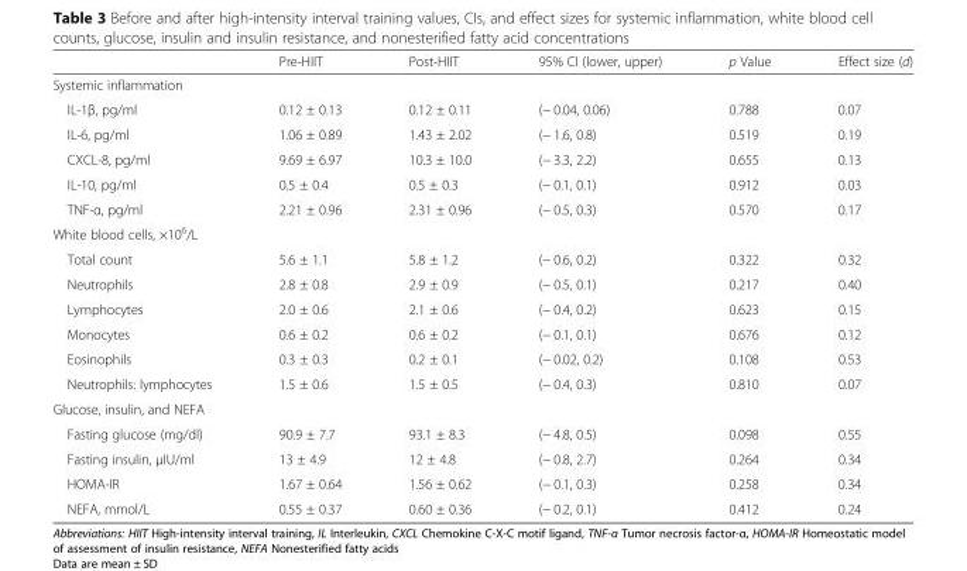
<table><thead><tr><td></td><td>Pre-HIIT</td><td>Post-HIIT</td><td>95% CI (lower, upper)</td><td>p Value</td><td>Effect size (d)</td></tr></thead><tbody><tr><td colspan="6">Systemic inflammation</td></tr><tr><td>IL-1β, pg/ml</td><td>0.12 ± 0.13</td><td>0.12 ± 0.11</td><td>(− 0.04, 0.06)</td><td>0.788</td><td>0.07</td></tr><tr><td>IL-6, pg/ml</td><td>1.06 ± 0.89</td><td>1.43 ± 2.02</td><td>(− 1.6, 0.8)</td><td>0.519</td><td>0.19</td></tr><tr><td>CXCL-8, pg/ml</td><td>9.69 ± 6.97</td><td>10.3 ± 10.0</td><td>(− 3.3, 2.2)</td><td>0.655</td><td>0.13</td></tr><tr><td>IL-10, pg/ml</td><td>0.5 ± 0.4</td><td>0.5 ± 0.3</td><td>(− 0.1, 0.1)</td><td>0.912</td><td>0.03</td></tr><tr><td>TNF-α, pg/ml</td><td>2.21 ± 0.96</td><td>2.31 ± 0.96</td><td>(− 0.5, 0.3)</td><td>0.570</td><td>0.17</td></tr><tr><td colspan="6">White blood cells, ×10<sup>6</sup>/L</td></tr><tr><td>Total count</td><td>5.6 ± 1.1</td><td>5.8 ± 1.2</td><td>(− 0.6, 0.2)</td><td>0.322</td><td>0.32</td></tr><tr><td>Neutrophils</td><td>2.8 ± 0.8</td><td>2.9 ± 0.9</td><td>(− 0.5, 0.1)</td><td>0.217</td><td>0.40</td></tr><tr><td>Lymphocytes</td><td>2.0 ± 0.6</td><td>2.1 ± 0.6</td><td>(− 0.4, 0.2)</td><td>0.623</td><td>0.15</td></tr><tr><td>Monocytes</td><td>0.6 ± 0.2</td><td>0.6 ± 0.2</td><td>(− 0.1, 0.1)</td><td>0.676</td><td>0.12</td></tr><tr><td>Eosinophils</td><td>0.3 ± 0.3</td><td>0.2 ± 0.1</td><td>(− 0.02, 0.2)</td><td>0.108</td><td>0.53</td></tr><tr><td>Neutrophils: lymphocytes</td><td>1.5 ± 0.6</td><td>1.5 ± 0.5</td><td>(− 0.4, 0.3)</td><td>0.810</td><td>0.07</td></tr><tr><td colspan="6">Glucose, insulin, and NEFA</td></tr><tr><td>Fasting glucose (mg/dl)</td><td>90.9 ± 7.7</td><td>93.1 ± 8.3</td><td>(− 4.8, 0.5)</td><td>0.098</td><td>0.55</td></tr><tr><td>Fasting insulin, μIU/ml</td><td>13 ± 4.9</td><td>12 ± 4.8</td><td>(− 0.8, 2.7)</td><td>0.264</td><td>0.34</td></tr><tr><td>HOMA-IR</td><td>1.67 ± 0.64</td><td>1.56 ± 0.62</td><td>(− 0.1, 0.3)</td><td>0.258</td><td>0.34</td></tr><tr><td>NEFA, mmol/L</td><td>0.55 ± 0.37</td><td>0.60 ± 0.36</td><td>(− 0.2, 0.1)</td><td>0.412</td><td>0.24</td></tr></tbody></table>